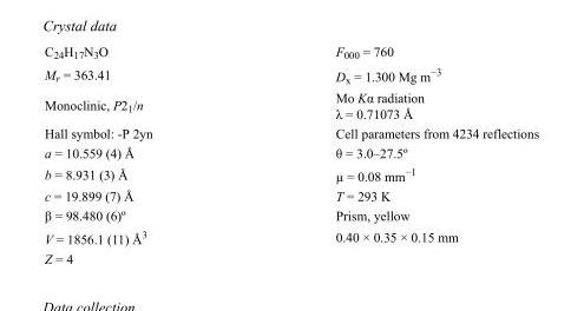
<table><tbody><tr><td>C<sub>24</sub>H<sub>17</sub>N<sub>3</sub>O</td><td>F000 = 760</td></tr><tr><td>M<sub>r</sub> = 363.41</td><td>D<sub>x</sub> = 1.300 Mg m<sup>−3</sup></td></tr><tr><td>Monoclinic, P2<sub>1</sub>/n</td><td>Mo Kα radiation λ = 0.71073 Å</td></tr><tr><td>Hall symbol: -P 2yn</td><td>Cell parameters from 4234 reflections</td></tr><tr><td>a = 10.559 (4) Å</td><td>θ = 3.0–27.5º</td></tr><tr><td>b = 8.931 (3) Å</td><td>µ = 0.08 mm<sup>−1</sup></td></tr><tr><td>c = 19.899 (7) Å</td><td>T = 293 K</td></tr><tr><td>β = 98.480 (6)º</td><td>Prism, yellow</td></tr><tr><td>V = 1856.1 (11) Å<sup>3</sup></td><td>0.40 × 0.35 × 0.15 mm</td></tr><tr><td>Z = 4</td><td></td></tr></tbody></table>